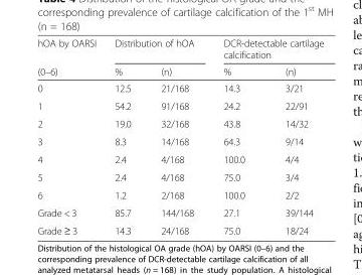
<table><thead><tr><td rowspan="2">hOA by OARSI (0–6)</td><td colspan="2">Distribution of hOA</td><td colspan="2">DCR-detectable cartilage calcification</td></tr><tr><td>%</td><td>(n)</td><td>%</td><td>(n)</td></tr></thead><tbody><tr><td>0</td><td>12.5</td><td>21/168</td><td>14.3</td><td>3/21</td></tr><tr><td>1</td><td>54.2</td><td>91/168</td><td>24.2</td><td>22/91</td></tr><tr><td>2</td><td>19.0</td><td>32/168</td><td>43.8</td><td>14/32</td></tr><tr><td>3</td><td>8.3</td><td>14/168</td><td>64.3</td><td>9/14</td></tr><tr><td>4</td><td>2.4</td><td>4/168</td><td>100.0</td><td>4/4</td></tr><tr><td>5</td><td>2.4</td><td>4/168</td><td>75.0</td><td>3/4</td></tr><tr><td>6</td><td>1.2</td><td>2/168</td><td>100.0</td><td>2/2</td></tr><tr><td>Grade &lt; 3</td><td>85.7</td><td>144/168</td><td>27.1</td><td>39/144</td></tr><tr><td>Grade ≥ 3</td><td>14.3</td><td>24/168</td><td>75.0</td><td>18/24</td></tr></tbody></table>